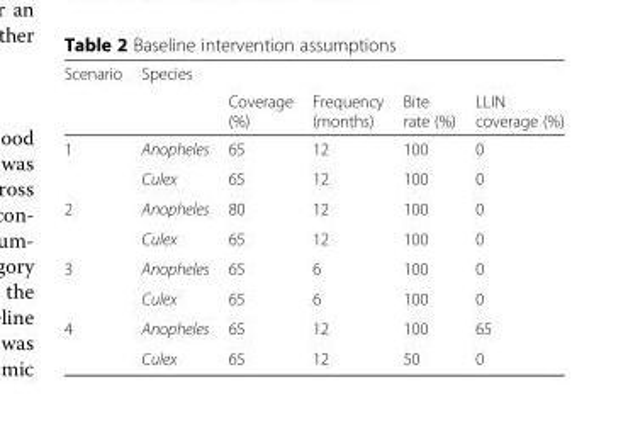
<table><thead><tr><td rowspan="2">Scenario</td><td rowspan="2">Species</td><td rowspan="2">Coverage (%)</td><td rowspan="2">Frequency (months)</td><td rowspan="2">Bite rate (%)</td><td rowspan="2">LLIN coverage (%)</td></tr><tr></tr></thead><tbody><tr><td rowspan="2">1</td><td>Anopheles</td><td>65</td><td>12</td><td>100</td><td>0</td></tr><tr><td>Culex</td><td>65</td><td>12</td><td>100</td><td>0</td></tr><tr><td rowspan="2">2</td><td>Anopheles</td><td>80</td><td>12</td><td>100</td><td>0</td></tr><tr><td>Culex</td><td>65</td><td>12</td><td>100</td><td>0</td></tr><tr><td rowspan="2">3</td><td>Anopheles</td><td>65</td><td>6</td><td>100</td><td>0</td></tr><tr><td>Culex</td><td>65</td><td>6</td><td>100</td><td>0</td></tr><tr><td rowspan="2">4</td><td>Anopheles</td><td>65</td><td>12</td><td>100</td><td>65</td></tr><tr><td>Culex</td><td>65</td><td>12</td><td>50</td><td>0</td></tr></tbody></table>